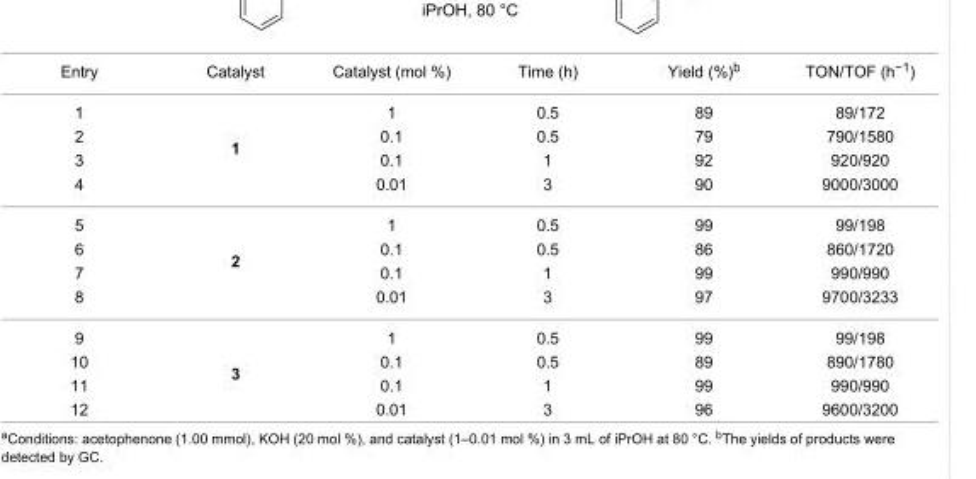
<table><tbody><tr><td>Entry</td><td>Catalyst</td><td>Catalyst (mol %)</td><td>Time (h)</td><td>Yield (%)<sup>b</sup></td><td>TON/TOF (h<sup>−1</sup>)</td></tr><tr><td>1</td><td rowspan="4">1</td><td>1</td><td>0.5</td><td>89</td><td>89/172</td></tr><tr><td>2</td><td>0.1</td><td>0.5</td><td>79</td><td>790/1580</td></tr><tr><td>3</td><td>0.1</td><td>1</td><td>92</td><td>920/920</td></tr><tr><td>4</td><td>0.01</td><td>3</td><td>90</td><td>9000/3000</td></tr><tr><td>5</td><td rowspan="4">2</td><td>1</td><td>0.5</td><td>99</td><td>99/198</td></tr><tr><td>6</td><td>0.1</td><td>0.5</td><td>86</td><td>860/1720</td></tr><tr><td>7</td><td>0.1</td><td>1</td><td>99</td><td>990/990</td></tr><tr><td>8</td><td>0.01</td><td>3</td><td>97</td><td>9700/3233</td></tr><tr><td>9</td><td rowspan="4">3</td><td>1</td><td>0.5</td><td>99</td><td>99/198</td></tr><tr><td>10</td><td>0.1</td><td>0.5</td><td>89</td><td>890/1780</td></tr><tr><td>11</td><td>0.1</td><td>1</td><td>99</td><td>990/990</td></tr><tr><td>12</td><td>0.01</td><td>3</td><td>96</td><td>9600/3200</td></tr></tbody></table>